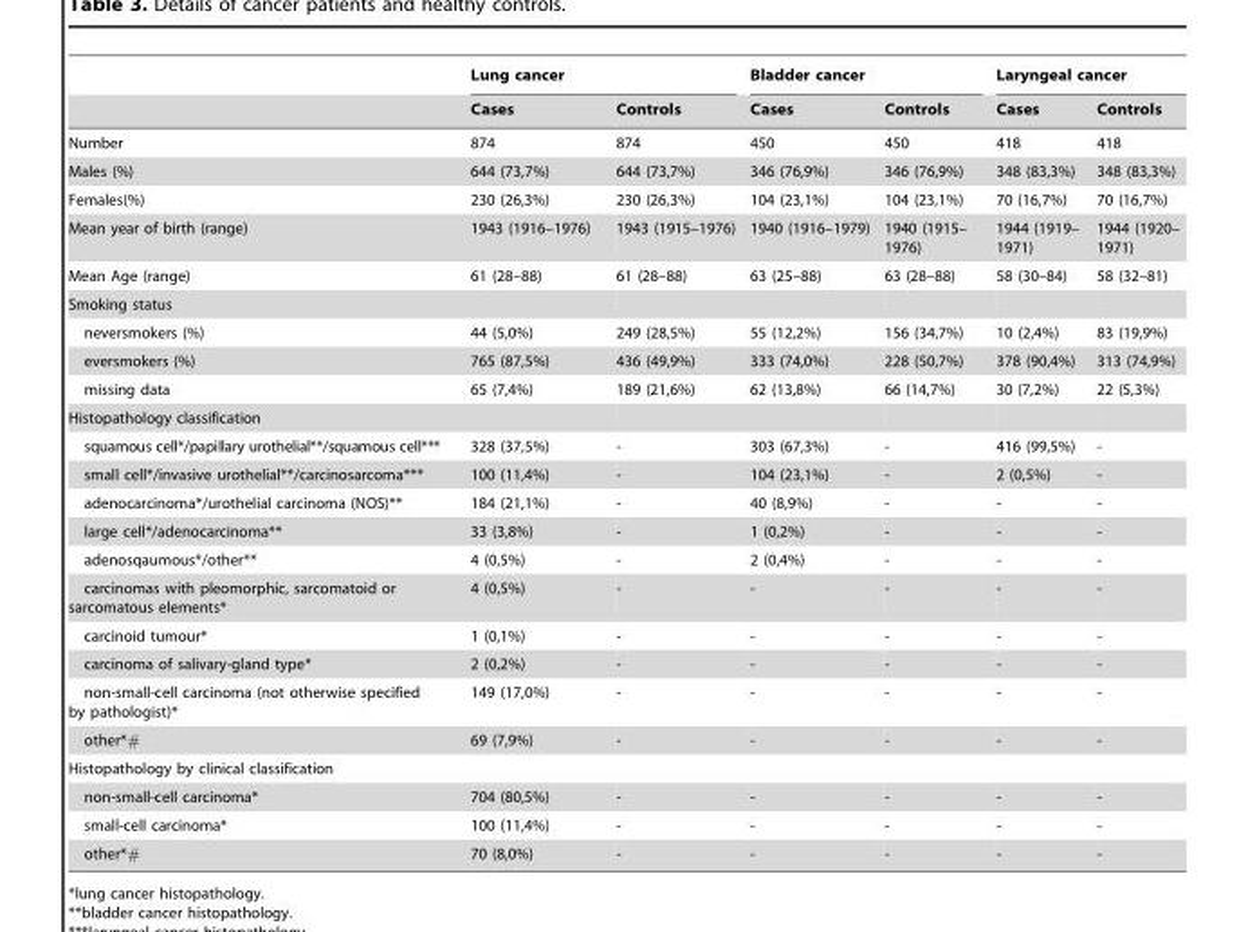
<table><thead><tr><td rowspan="2"></td><td colspan="2">Lung cancer</td><td colspan="2">Bladder cancer</td><td colspan="2">Laryngeal cancer</td></tr><tr><td>Cases</td><td>Controls</td><td>Cases</td><td>Controls</td><td>Cases</td><td>Controls</td></tr></thead><tbody><tr><td>Number</td><td>874</td><td>874</td><td>450</td><td>450</td><td>418</td><td>418</td></tr><tr><td>Males (%)</td><td>644 (73,7%)</td><td>644 (73,7%)</td><td>346 (76,9%)</td><td>346 (76,9%)</td><td>348 (83,3%)</td><td>348 (83,3%)</td></tr><tr><td>Females(%)</td><td>230 (26,3%)</td><td>230 (26,3%)</td><td>104 (23,1%)</td><td>104 (23,1%)</td><td>70 (16,7%)</td><td>70 (16,7%)</td></tr><tr><td>Mean year of birth (range)</td><td>1943 (1916–1976)</td><td>1943 (1915–1976)</td><td>1940 (1916–1979)</td><td>1940 (1915– 1976)</td><td>1944 (1919– 1971)</td><td>1944 (1920– 1971)</td></tr><tr><td>Mean Age (range)</td><td>61 (28–88)</td><td>61 (28–88)</td><td>63 (25–88)</td><td>63 (28–88)</td><td>58 (30–84)</td><td>58 (32–81)</td></tr><tr><td colspan="7">Smoking status</td></tr><tr><td>neversmokers (%)</td><td>44 (5,0%)</td><td>249 (28,5%)</td><td>55 (12,2%)</td><td>156 (34,7%)</td><td>10 (2,4%)</td><td>83 (19,9%)</td></tr><tr><td>eversmokers (%)</td><td>765 (87,5%)</td><td>436 (49,9%)</td><td>333 (74,0%)</td><td>228 (50,7%)</td><td>378 (90,4%)</td><td>313 (74,9%)</td></tr><tr><td>missing data</td><td>65 (7,4%)</td><td>189 (21,6%)</td><td>62 (13,8%)</td><td>66 (14,7%)</td><td>30 (7,2%)</td><td>22 (5,3%)</td></tr><tr><td colspan="7">Histopathology classification</td></tr><tr><td>squamous cell*/papillary urothelial**/squamous cell***</td><td>328 (37,5%)</td><td>-</td><td>303 (67,3%)</td><td>-</td><td>416 (99,5%)</td><td>-</td></tr><tr><td>small cell*/invasive urothelial**/carcinosarcoma***</td><td>100 (11,4%)</td><td>-</td><td>104 (23,1%)</td><td>-</td><td>2 (0,5%)</td><td>-</td></tr><tr><td>adenocarcinoma*/urothelial carcinoma (NOS)**</td><td>184 (21,1%)</td><td>-</td><td>40 (8,9%)</td><td>-</td><td>-</td><td>-</td></tr><tr><td>large cell*/adenocarcinoma**</td><td>33 (3,8%)</td><td>-</td><td>1 (0,2%)</td><td>-</td><td>-</td><td>-</td></tr><tr><td>adenosqaumous*/other**</td><td>4 (0,5%)</td><td>-</td><td>2 (0,4%)</td><td>-</td><td>-</td><td>-</td></tr><tr><td>carcinomas with pleomorphic, sarcomatoid or sarcomatous elements*</td><td>4 (0,5%)</td><td>-</td><td>-</td><td>-</td><td>-</td><td>-</td></tr><tr><td>carcinoid tumour*</td><td>1 (0,1%)</td><td>-</td><td>-</td><td>-</td><td>-</td><td>-</td></tr><tr><td>carcinoma of salivary-gland type*</td><td>2 (0,2%)</td><td>-</td><td>-</td><td>-</td><td>-</td><td>-</td></tr><tr><td>non-small-cell carcinoma (not otherwise specified by pathologist)*</td><td>149 (17,0%)</td><td>-</td><td>-</td><td>-</td><td>-</td><td>-</td></tr><tr><td>other*#</td><td>69 (7,9%)</td><td>-</td><td>-</td><td>-</td><td>-</td><td>-</td></tr><tr><td colspan="7">Histopathology by clinical classification</td></tr><tr><td>non-small-cell carcinoma*</td><td>704 (80,5%)</td><td>-</td><td>-</td><td>-</td><td>-</td><td>-</td></tr><tr><td>small-cell carcinoma*</td><td>100 (11,4%)</td><td>-</td><td>-</td><td>-</td><td>-</td><td>-</td></tr><tr><td>other*#</td><td>70 (8,0%)</td><td>-</td><td>-</td><td>-</td><td>-</td><td>-</td></tr></tbody></table>